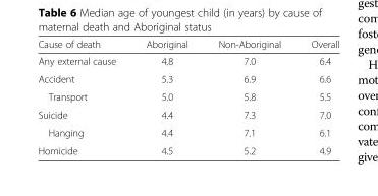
<table><thead><tr><td>Cause of death</td><td>Aboriginal</td><td>Non-Aboriginal</td><td>Overall</td></tr></thead><tbody><tr><td>Any external cause</td><td>4.8</td><td>7.0</td><td>6.4</td></tr><tr><td>Accident</td><td>5.3</td><td>6.9</td><td>6.6</td></tr><tr><td>Transport</td><td>5.0</td><td>5.8</td><td>5.5</td></tr><tr><td>Suicide</td><td>4.4</td><td>7.3</td><td>7.0</td></tr><tr><td>Hanging</td><td>4.4</td><td>7.1</td><td>6.1</td></tr><tr><td>Homicide</td><td>4.5</td><td>5.2</td><td>4.9</td></tr></tbody></table>